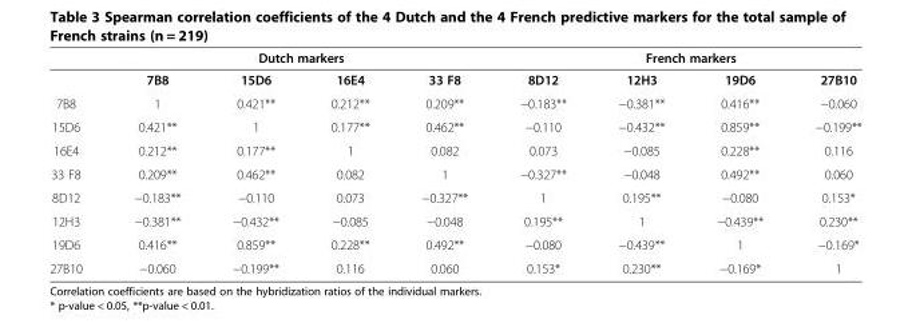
<table><thead><tr><td rowspan="2"></td><td colspan="4">Dutch markers</td><td colspan="4">French markers</td></tr><tr><td>7B8</td><td>15D6</td><td>16E4</td><td>33 F8</td><td>8D12</td><td>12H3</td><td>19D6</td><td>27B10</td></tr></thead><tbody><tr><td>7B8</td><td>1</td><td>0.421**</td><td>0.212**</td><td>0.209**</td><td>−0.183**</td><td>−0.381**</td><td>0.416**</td><td>−0.060</td></tr><tr><td>15D6</td><td>0.421**</td><td>1</td><td>0.177**</td><td>0.462**</td><td>−0.110</td><td>−0.432**</td><td>0.859**</td><td>−0.199**</td></tr><tr><td>16E4</td><td>0.212**</td><td>0.177**</td><td>1</td><td>0.082</td><td>0.073</td><td>−0.085</td><td>0.228**</td><td>0.116</td></tr><tr><td>33 F8</td><td>0.209**</td><td>0.462**</td><td>0.082</td><td>1</td><td>−0.327**</td><td>−0.048</td><td>0.492**</td><td>0.060</td></tr><tr><td>8D12</td><td>−0.183**</td><td>−0.110</td><td>0.073</td><td>−0.327**</td><td>1</td><td>0.195**</td><td>−0.080</td><td>0.153*</td></tr><tr><td>12H3</td><td>−0.381**</td><td>−0.432**</td><td>−0.085</td><td>−0.048</td><td>0.195**</td><td>1</td><td>−0.439**</td><td>0.230**</td></tr><tr><td>19D6</td><td>0.416**</td><td>0.859**</td><td>0.228**</td><td>0.492**</td><td>−0.080</td><td>−0.439**</td><td>1</td><td>−0.169*</td></tr><tr><td>27B10</td><td>−0.060</td><td>−0.199**</td><td>0.116</td><td>0.060</td><td>0.153*</td><td>0.230**</td><td>−0.169*</td><td>1</td></tr></tbody></table>